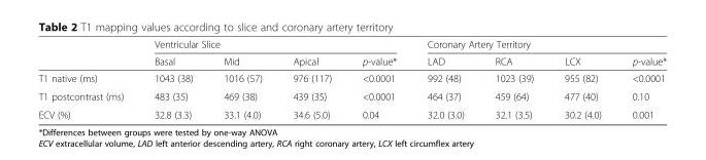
<table><thead><tr><td rowspan="2"></td><td colspan="4">Ventricular Slice</td><td colspan="4">Coronary Artery Territory</td></tr><tr><td>Basal</td><td>Mid</td><td>Apical</td><td>p-value*</td><td>LAD</td><td>RCA</td><td>LCX</td><td>p-value*</td></tr></thead><tbody><tr><td>T1 native (ms)</td><td>1043 (38)</td><td>1016 (57)</td><td>976 (117)</td><td>&lt;0.0001</td><td>992 (48)</td><td>1023 (39)</td><td>955 (82)</td><td>&lt;0.0001</td></tr><tr><td>T1 postcontrast (ms)</td><td>483 (35)</td><td>469 (38)</td><td>439 (35)</td><td>&lt;0.0001</td><td>464 (37)</td><td>459 (64)</td><td>477 (40)</td><td>0.10</td></tr><tr><td>ECV (%)</td><td>32.8 (3.3)</td><td>33.1 (4.0)</td><td>34.6 (5.0)</td><td>0.04</td><td>32.0 (3.0)</td><td>32.1 (3.5)</td><td>30.2 (4.0)</td><td>0.001</td></tr></tbody></table>